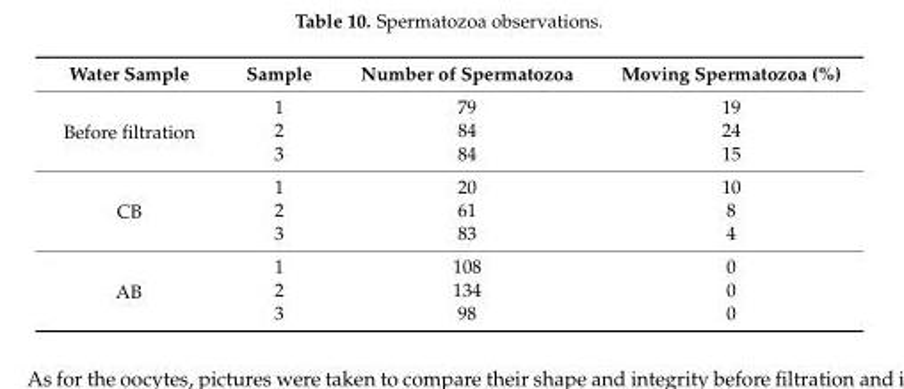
<table><thead><tr><td>Water Sample</td><td>Sample</td><td>Number of Spermatozoa</td><td>Moving Spermatozoa (%)</td></tr></thead><tbody><tr><td rowspan="3">Before filtration</td><td>1</td><td>79</td><td>19</td></tr><tr><td>2</td><td>84</td><td>24</td></tr><tr><td>3</td><td>84</td><td>15</td></tr><tr><td rowspan="3">CB</td><td>1</td><td>20</td><td>10</td></tr><tr><td>2</td><td>61</td><td>8</td></tr><tr><td>3</td><td>83</td><td>4</td></tr><tr><td rowspan="3">AB</td><td>1</td><td>108</td><td>0</td></tr><tr><td>2</td><td>134</td><td>0</td></tr><tr><td>3</td><td>98</td><td>0</td></tr></tbody></table>